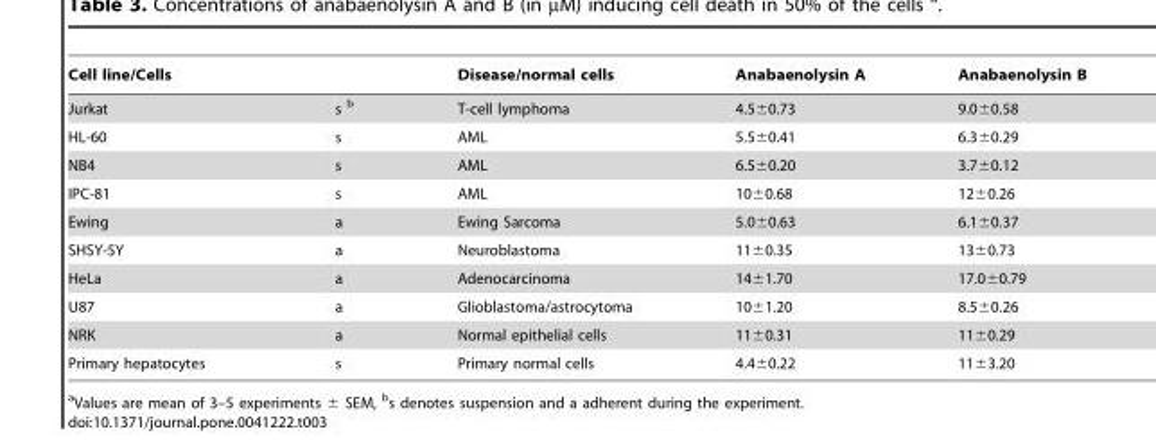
<table><thead><tr><td>Cell line/Cells</td><td></td><td>Disease/normal cells</td><td>Anabaenolysin A</td><td>Anabaenolysin B</td></tr></thead><tbody><tr><td>Jurkat</td><td>s <sup>b</sup></td><td>T-cell lymphoma</td><td>4.5±0.73</td><td>9.0±0.58</td></tr><tr><td>HL-60</td><td>s</td><td>AML</td><td>5.5±0.41</td><td>6.3±0.29</td></tr><tr><td>NB4</td><td>s</td><td>AML</td><td>6.5±0.20</td><td>3.7±0.12</td></tr><tr><td>IPC-81</td><td>s</td><td>AML</td><td>10±0.68</td><td>12±0.26</td></tr><tr><td>Ewing</td><td>a</td><td>Ewing Sarcoma</td><td>5.0±0.63</td><td>6.1±0.37</td></tr><tr><td>SHSY-5Y</td><td>a</td><td>Neuroblastoma</td><td>11±0.35</td><td>13±0.73</td></tr><tr><td>HeLa</td><td>a</td><td>Adenocarcinoma</td><td>14±1.70</td><td>17.0±0.79</td></tr><tr><td>U87</td><td>a</td><td>Glioblastoma/astrocytoma</td><td>10±1.20</td><td>8.5±0.26</td></tr><tr><td>NRK</td><td>a</td><td>Normal epithelial cells</td><td>11±0.31</td><td>11±0.29</td></tr><tr><td>Primary hepatocytes</td><td>s</td><td>Primary normal cells</td><td>4.4±0.22</td><td>11±3.20</td></tr></tbody></table>